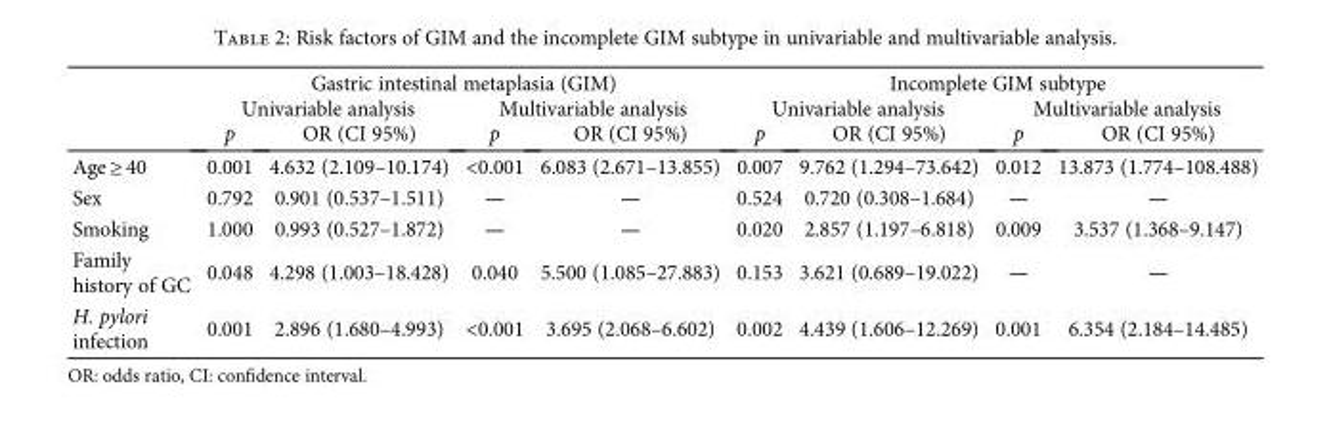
<table><thead><tr><td rowspan="3"></td><td colspan="4">Gastric intestinal metaplasia (GIM)</td><td colspan="4">Incomplete GIM subtype</td></tr><tr><td colspan="2">Univariable analysis</td><td colspan="2">Multivariable analysis</td><td colspan="2">Univariable analysis</td><td colspan="2">Multivariable analysis</td></tr><tr><td>p</td><td>OR (CI 95%)</td><td>p</td><td>OR (CI 95%)</td><td>p</td><td>OR (CI 95%)</td><td>p</td><td>OR (CI 95%)</td></tr></thead><tbody><tr><td>Age ≥ 40</td><td>0.001</td><td>4.632 (2.109–10.174)</td><td>&lt;0.001</td><td>6.083 (2.671–13.855)</td><td>0.007</td><td>9.762 (1.294–73.642)</td><td>0.012</td><td>13.873 (1.774–108.488)</td></tr><tr><td>Sex</td><td>0.792</td><td>0.901 (0.537–1.511)</td><td>—</td><td>—</td><td>0.524</td><td>0.720 (0.308–1.684)</td><td>—</td><td>—</td></tr><tr><td>Smoking</td><td>1.000</td><td>0.993 (0.527–1.872)</td><td>—</td><td>—</td><td>0.020</td><td>2.857 (1.197–6.818)</td><td>0.009</td><td>3.537 (1.368–9.147)</td></tr><tr><td>Family history of GC</td><td>0.048</td><td>4.298 (1.003–18.428)</td><td>0.040</td><td>5.500 (1.085–27.883)</td><td>0.153</td><td>3.621 (0.689–19.022)</td><td>—</td><td>—</td></tr><tr><td>H. pylori infection</td><td>0.001</td><td>2.896 (1.680–4.993)</td><td>&lt;0.001</td><td>3.695 (2.068–6.602)</td><td>0.002</td><td>4.439 (1.606–12.269)</td><td>0.001</td><td>6.354 (2.184–14.485)</td></tr></tbody></table>